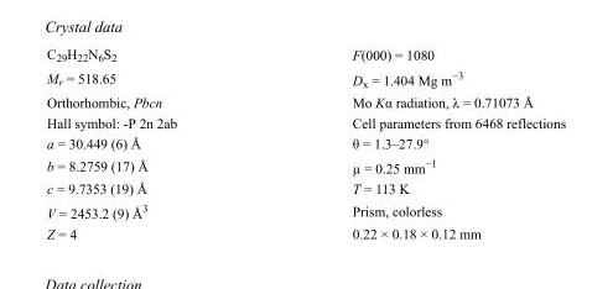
<table><tbody><tr><td>C<sub>29</sub>H<sub>22</sub>N<sub>6</sub>S<sub>2</sub></td><td>F(000) = 1080</td></tr><tr><td>M<sub>r</sub> = 518.65</td><td>D<sub>x</sub> = 1.404 Mg m<sup>−3</sup></td></tr><tr><td>Orthorhombic, Pbcn</td><td>Mo Kα radiation, λ = 0.71073 Å</td></tr><tr><td>Hall symbol: -P 2n 2ab</td><td>Cell parameters from 6468 reflections</td></tr><tr><td>a = 30.449 (6) Å</td><td>θ = 1.3–27.9°</td></tr><tr><td>b = 8.2759 (17) Å</td><td>µ = 0.25 mm<sup>−1</sup></td></tr><tr><td>c = 9.7353 (19) Å</td><td>T = 113 K</td></tr><tr><td>V = 2453.2 (9) Å<sup>3</sup></td><td>Prism, colorless</td></tr><tr><td>Z = 4</td><td>0.22 × 0.18 × 0.12 mm</td></tr></tbody></table>